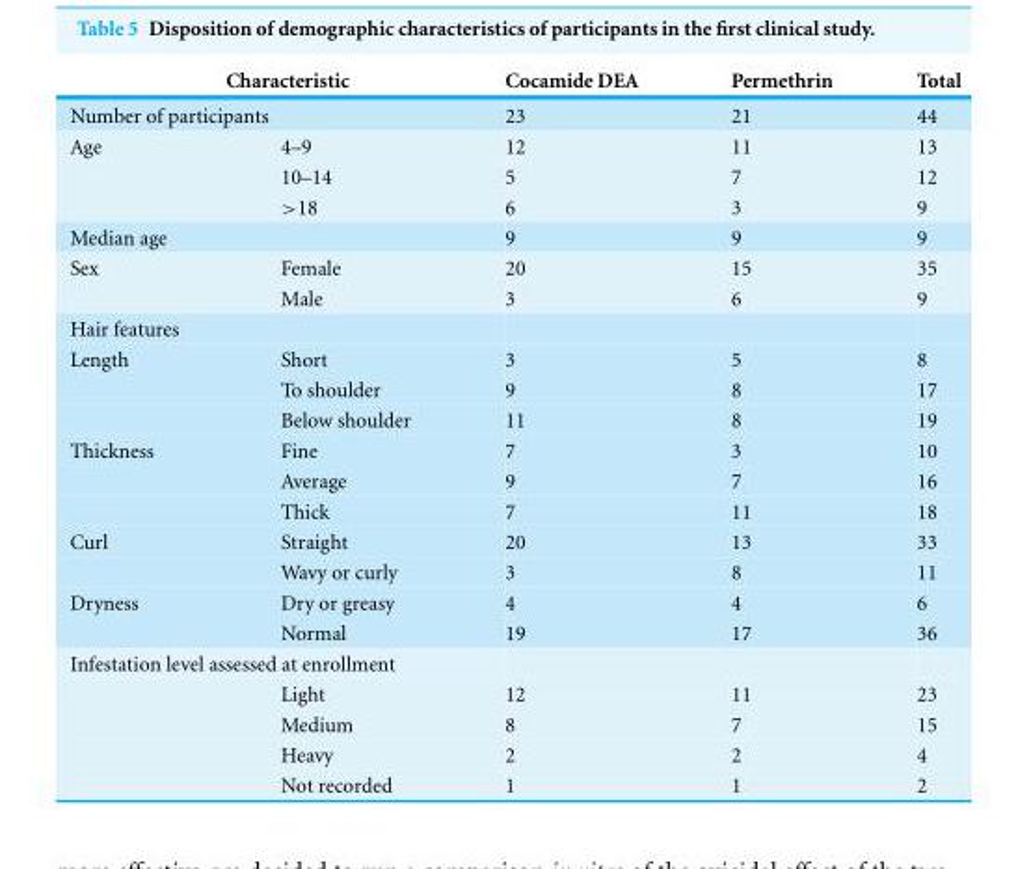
<table><thead><tr><td rowspan="2" colspan="2">Characteristic Number of participants</td><td rowspan="3">Cocamide DEA 23 12</td><td rowspan="3">Permethrin 21 11</td><td rowspan="3">Total 44 13</td></tr><tr></tr><tr><td>Age</td><td>4–9</td></tr></thead><tbody><tr><td></td><td>10–14</td><td>5</td><td>7</td><td>12</td></tr><tr><td></td><td>&gt;18</td><td>6</td><td>3</td><td>9</td></tr><tr><td>Median age</td><td></td><td>9</td><td>9</td><td>9</td></tr><tr><td rowspan="2">Sex</td><td>Female</td><td>20</td><td>15</td><td>35</td></tr><tr><td>Male</td><td>3</td><td>6</td><td>9</td></tr><tr><td colspan="5">Hair features</td></tr><tr><td rowspan="3">Length</td><td>Short</td><td>3</td><td>5</td><td>8</td></tr><tr><td>To shoulder</td><td>9</td><td>8</td><td>17</td></tr><tr><td>Below shoulder</td><td>11</td><td>8</td><td>19</td></tr><tr><td rowspan="3">Thickness</td><td>Fine</td><td>7</td><td>3</td><td>10</td></tr><tr><td>Average</td><td>9</td><td>7</td><td>16</td></tr><tr><td>Thick</td><td>7</td><td>11</td><td>18</td></tr><tr><td rowspan="2">Curl</td><td>Straight</td><td>20</td><td>13</td><td>33</td></tr><tr><td>Wavy or curly</td><td>3</td><td>8</td><td>11</td></tr><tr><td rowspan="2">Dryness</td><td>Dry or greasy</td><td>4</td><td>4</td><td>6</td></tr><tr><td>Normal</td><td>19</td><td>17</td><td>36</td></tr><tr><td colspan="5">Infestation level assessed at enrollment</td></tr><tr><td></td><td>Light</td><td>12</td><td>11</td><td>23</td></tr><tr><td></td><td>Medium</td><td>8</td><td>7</td><td>15</td></tr><tr><td></td><td>Heavy</td><td>2</td><td>2</td><td>4</td></tr><tr><td></td><td>Not recorded</td><td>1</td><td>1</td><td>2</td></tr></tbody></table>